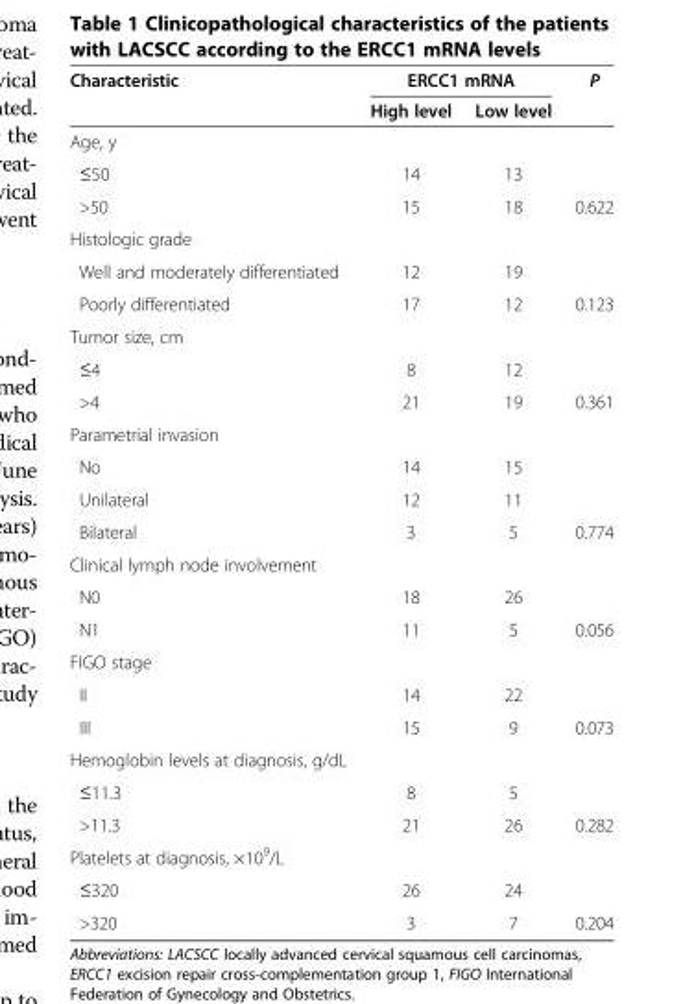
<table><thead><tr><td rowspan="2">Characteristic</td><td colspan="2">ERCC1 mRNA</td><td rowspan="2">P</td></tr><tr><td>High level</td><td>Low level</td></tr></thead><tbody><tr><td colspan="4">Age, y</td></tr><tr><td>≤50</td><td>14</td><td>13</td><td></td></tr><tr><td>&gt;50</td><td>15</td><td>18</td><td>0.622</td></tr><tr><td colspan="4">Histologic grade</td></tr><tr><td>Well and moderately differentiated</td><td>12</td><td>19</td><td></td></tr><tr><td>Poorly differentiated</td><td>17</td><td>12</td><td>0.123</td></tr><tr><td colspan="4">Tumor size, cm</td></tr><tr><td>≤4</td><td>8</td><td>12</td><td></td></tr><tr><td>&gt;4</td><td>21</td><td>19</td><td>0.361</td></tr><tr><td colspan="4">Parametrial invasion</td></tr><tr><td>No</td><td>14</td><td>15</td><td></td></tr><tr><td>Unilateral</td><td>12</td><td>11</td><td></td></tr><tr><td>Bilateral</td><td>3</td><td>5</td><td>0.774</td></tr><tr><td colspan="4">Clinical lymph node involvement</td></tr><tr><td>N0</td><td>18</td><td>26</td><td></td></tr><tr><td>N1</td><td>11</td><td>5</td><td>0.056</td></tr><tr><td colspan="4">FIGO stage</td></tr><tr><td>II</td><td>14</td><td>22</td><td></td></tr><tr><td>III</td><td>15</td><td>9</td><td>0.073</td></tr><tr><td colspan="4">Hemoglobin levels at diagnosis, g/dL</td></tr><tr><td>≤11.3</td><td>8</td><td>5</td><td></td></tr><tr><td>&gt;11.3</td><td>21</td><td>26</td><td>0.282</td></tr><tr><td colspan="4">Platelets at diagnosis, ×10<sup>9</sup>/L</td></tr><tr><td>≤320</td><td>26</td><td>24</td><td></td></tr><tr><td>&gt;320</td><td>3</td><td>7</td><td>0.204</td></tr></tbody></table>